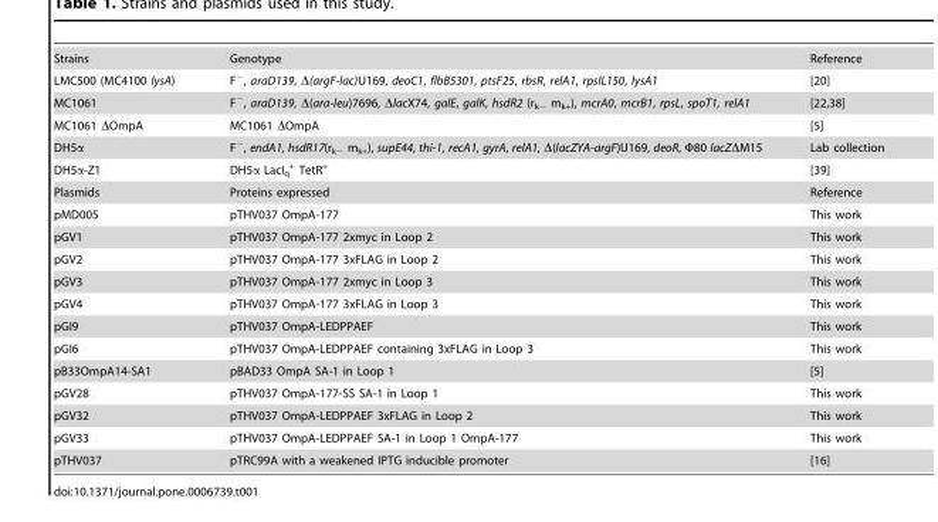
<table><tbody><tr><td>Strains</td><td>Genotype</td><td>Reference</td></tr><tr><td>LMC500 (MC4100 lysA)</td><td>F<sup>−</sup>, araD139, Δ(argF-lac)U169, deoC1, flbB5301, ptsF25, rbsR, relA1, rpslL150, lysA1</td><td>[20]</td></tr><tr><td>MC1061</td><td>F<sup>−</sup>, araD139, Δ(ara-leu)7696, ΔlacX74, galE, galK, hsdR2 (r<sub>k−</sub> m<sub>k+</sub>), mcrA0, mcrB1, rpsL, spoT1, relA1</td><td>[22,38]</td></tr><tr><td>MC1061 ΔOmpA</td><td>MC1061 ΔOmpA</td><td>[5]</td></tr><tr><td>DH5α</td><td>F<sup>−</sup>, endA1, hsdR17(r<sub>k−</sub> m<sub>k+</sub>), supE44, thi-1, recA1, gyrA, relA1, Δ(lacZYA-argF)U169, deoR, Φ80 lacZΔM15</td><td>Lab collection</td></tr><tr><td>DH5α-Z1</td><td>DH5α LacI<sub>q</sub> <sup>+</sup> TetR<sup>+</sup></td><td>[39]</td></tr><tr><td>Plasmids</td><td>Proteins expressed</td><td>Reference</td></tr><tr><td>pMD005</td><td>pTHV037 OmpA-177</td><td>This work</td></tr><tr><td>pGV1</td><td>pTHV037 OmpA-177 2xmyc in Loop 2</td><td>This work</td></tr><tr><td>pGV2</td><td>pTHV037 OmpA-177 3xFLAG in Loop 2</td><td>This work</td></tr><tr><td>pGV3</td><td>pTHV037 OmpA-177 2xmyc in Loop 3</td><td>This work</td></tr><tr><td>pGV4</td><td>pTHV037 OmpA-177 3xFLAG in Loop 3</td><td>This work</td></tr><tr><td>pGI9</td><td>pTHV037 OmpA-LEDPPAEF</td><td>This work</td></tr><tr><td>pGI6</td><td>pTHV037 OmpA-LEDPPAEF containing 3xFLAG in Loop 3</td><td>This work</td></tr><tr><td>pB33OmpA14-SA1</td><td>pBAD33 OmpA SA-1 in Loop 1</td><td>[5]</td></tr><tr><td>pGV28</td><td>pTHV037 OmpA-177-SS SA-1 in Loop 1</td><td>This work</td></tr><tr><td>pGV32</td><td>pTHV037 OmpA-LEDPPAEF 3xFLAG in Loop 2</td><td>This work</td></tr><tr><td>pGV33</td><td>pTHV037 OmpA-LEDPPAEF SA-1 in Loop 1 OmpA-177</td><td>This work</td></tr><tr><td>pTHV037</td><td>pTRC99A with a weakened IPTG inducible promoter</td><td>[16]</td></tr></tbody></table>